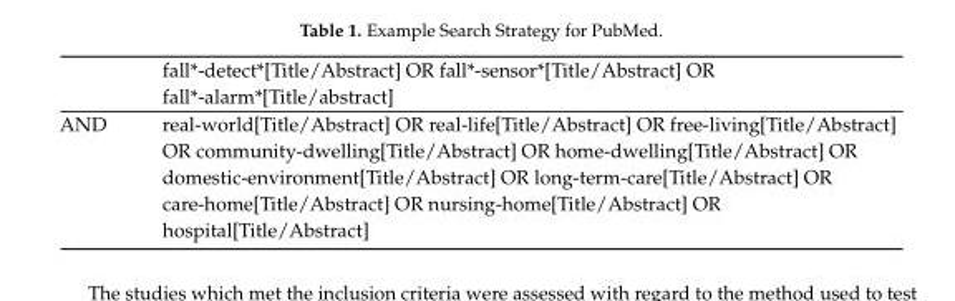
<table><thead><tr><td></td><td>fall*-detect*[Title/Abstract] OR fall*-sensor*[Title/Abstract] OR fall*-alarm*[Title/abstract]</td></tr></thead><tbody><tr><td>AND</td><td>real-world[Title/Abstract] OR real-life[Title/Abstract] OR free-living[Title/Abstract] OR community-dwelling[Title/Abstract] OR home-dwelling[Title/Abstract] OR domestic-environment[Title/Abstract] OR long-term-care[Title/Abstract] OR care-home[Title/Abstract] OR nursing-home[Title/Abstract] OR hospital[Title/Abstract]</td></tr></tbody></table>